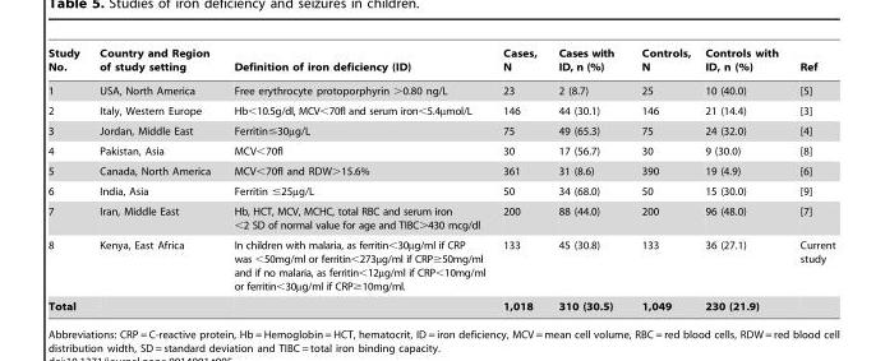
<table><thead><tr><td>Study No.</td><td>Country and Region of study setting</td><td>Definition of iron deficiency (ID)</td><td>Cases, N</td><td>Cases with ID, n (%)</td><td>Controls, N</td><td>Controls with ID, n (%)</td><td>Ref</td></tr></thead><tbody><tr><td>1</td><td>USA, North America</td><td>Free erythrocyte protoporphyrin &gt;0.80 ng/L</td><td>23</td><td>2 (8.7)</td><td>25</td><td>10 (40.0)</td><td>[5]</td></tr><tr><td>2</td><td>Italy, Western Europe</td><td>Hb&lt;10.5g/dl, MCV&lt;70fl and serum iron&lt;5.4µmol/L</td><td>146</td><td>44 (30.1)</td><td>146</td><td>21 (14.4)</td><td>[3]</td></tr><tr><td>3</td><td>Jordan, Middle East</td><td>Ferritin≤30µg/L</td><td>75</td><td>49 (65.3)</td><td>75</td><td>24 (32.0)</td><td>[4]</td></tr><tr><td>4</td><td>Pakistan, Asia</td><td>MCV&lt;70fl</td><td>30</td><td>17 (56.7)</td><td>30</td><td>9 (30.0)</td><td>[8]</td></tr><tr><td>5</td><td>Canada, North America</td><td>MCV&lt;70fl and RDW&gt;15.6%</td><td>361</td><td>31 (8.6)</td><td>390</td><td>19 (4.9)</td><td>[6]</td></tr><tr><td>6</td><td>India, Asia</td><td>Ferritin ≤25µg/L</td><td>50</td><td>34 (68.0)</td><td>50</td><td>15 (30.0)</td><td>[9]</td></tr><tr><td>7</td><td>Iran, Middle East</td><td>Hb, HCT, MCV, MCHC, total RBC and serum iron &lt;2 SD of normal value for age and TIBC&gt;430 mcg/dl</td><td>200</td><td>88 (44.0)</td><td>200</td><td>96 (48.0)</td><td>[7]</td></tr><tr><td>8</td><td>Kenya, East Africa</td><td>In children with malaria, as ferritin&lt;30µg/ml if CRP was &lt;50mg/ml or ferritin&lt;273µg/ml if CRP≥50mg/ml and if no malaria, as ferritin&lt;12µg/ml if CRP&lt;10mg/ml or ferritin&lt;30µg/ml if CRP≥10mg/ml.</td><td>133</td><td>45 (30.8)</td><td>133</td><td>36 (27.1)</td><td>Current study</td></tr><tr><td>Total</td><td></td><td></td><td>1,018</td><td>310 (30.5)</td><td>1,049</td><td>230 (21.9)</td><td></td></tr></tbody></table>